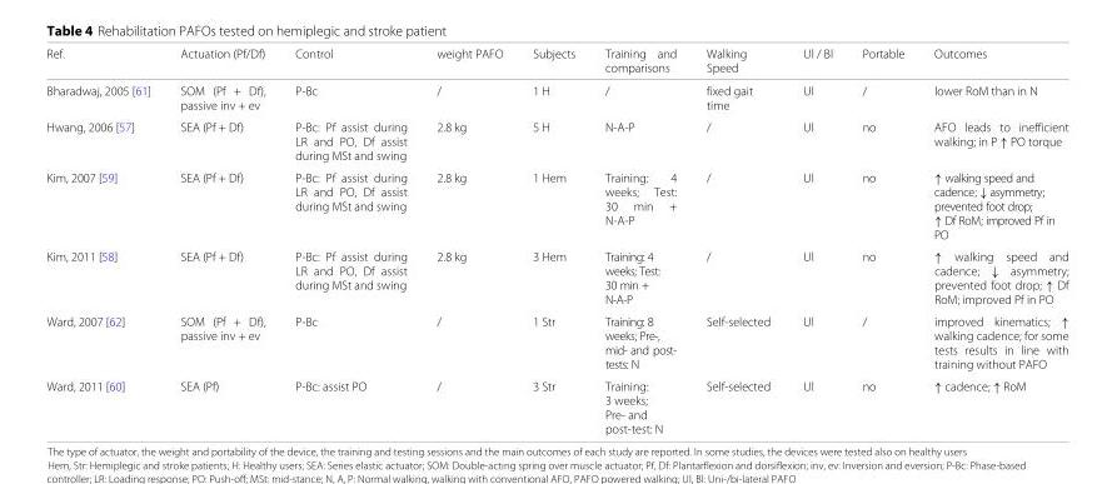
<table><thead><tr><td>Ref.</td><td>Actuation (Pf/Df)</td><td>Control</td><td>weight PAFO</td><td>Subjects</td><td>Training and comparisons</td><td>Walking Speed</td><td>Ul / Bl</td><td>Portable</td><td>Outcomes</td></tr></thead><tbody><tr><td>Bharadwaj, 2005 [61]</td><td>SOM (Pf + Df), passive inv + ev</td><td>P-Bc</td><td>/</td><td>1 H</td><td>/</td><td>fixed gait time</td><td>Ul</td><td>/</td><td>lower RoM than in N</td></tr><tr><td>Hwang, 2006 [57]</td><td>SEA (Pf + Df)</td><td>P-Bc: Pf assist during LR and PO, Df assist during MSt and swing</td><td>2.8 kg</td><td>5 H</td><td>N-A-P</td><td>/</td><td>Ul</td><td>no</td><td>AFO leads to inefficient walking; in P ↑ PO torque</td></tr><tr><td>Kim, 2007 [59]</td><td>SEA (Pf + Df)</td><td>P-Bc: Pf assist during LR and PO, Df assist during MSt and swing</td><td>2.8 kg</td><td>1 Hem</td><td>Training: 4 weeks; Test: 30 min + N-A-P</td><td>/</td><td>Ul</td><td>no</td><td>↑ walking speed and cadence; ↓ asymmetry; prevented foot drop; ↑ Df RoM; improved Pf in PO</td></tr><tr><td>Kim, 2011 [58]</td><td>SEA (Pf + Df)</td><td>P-Bc: Pf assist during LR and PO, Df assist during MSt and swing</td><td>2.8 kg</td><td>3 Hem</td><td>Training: 4 weeks; Test: 30 min + N-A-P</td><td>/</td><td>Ul</td><td>no</td><td>↑ walking speed and cadence; ↓ asymmetry; prevented foot drop; ↑ Df RoM; improved Pf in PO</td></tr><tr><td>Ward, 2007 [62]</td><td>SOM (Pf + Df), passive inv + ev</td><td>P-Bc</td><td>/</td><td>1 Str</td><td>Training: 8 weeks; Pre-, mid- and post- tests: N</td><td>Self-selected</td><td>Ul</td><td>/</td><td>improved kinematics; ↑ walking cadence; for some tests results in line with training without PAFO</td></tr><tr><td>Ward, 2011 [60]</td><td>SEA (Pf)</td><td>P-Bc: assist PO</td><td>/</td><td>3 Str</td><td>Training: 3 weeks; Pre- and post-test: N</td><td>Self-selected</td><td>Ul</td><td>no</td><td>↑ cadence; ↑ RoM</td></tr></tbody></table>